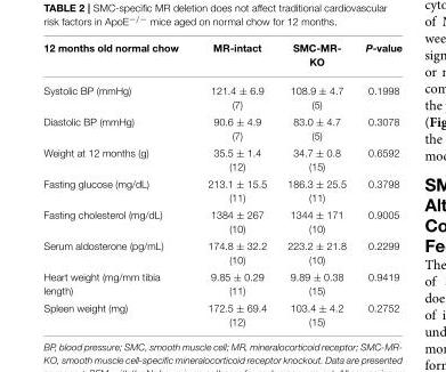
<table><thead><tr><td>12 months old normal chow</td><td>MR-intact</td><td>SMC-MR- KO</td><td>P-value</td></tr></thead><tbody><tr><td>Systolic BP (mmHg)</td><td>121.4 ± 6.9 (7)</td><td>108.9 ± 4.7 (5)</td><td>0.1998</td></tr><tr><td>Diastolic BP (mmHg)</td><td>90.6 ± 4.9 (7)</td><td>83.0 ± 4.7 (5)</td><td>0.3078</td></tr><tr><td>Weight at 12 months (g)</td><td>35.5 ± 1.4 (12)</td><td>34.7 ± 0.8 (15)</td><td>0.6592</td></tr><tr><td>Fasting glucose (mg/dL)</td><td>213.1 ± 15.5 (11)</td><td>186.3 ± 25.5 (11)</td><td>0.3798</td></tr><tr><td>Fasting cholesterol (mg/dL)</td><td>1384 ± 267 (10)</td><td>1344 ± 171 (10)</td><td>0.9005</td></tr><tr><td>Serum aldosterone (pg/mL)</td><td>174.8 ± 32.2 (10)</td><td>223.2 ± 21.8 (10)</td><td>0.2299</td></tr><tr><td>Heart weight (mg/mm tibia length)</td><td>9.85 ± 0.29 (11)</td><td>9.89 ± 0.38 (15)</td><td>0.9419</td></tr><tr><td>Spleen weight (mg)</td><td>172.5 ± 69.4 (12)</td><td>103.4 ± 4.2 (15)</td><td>0.2752</td></tr></tbody></table>